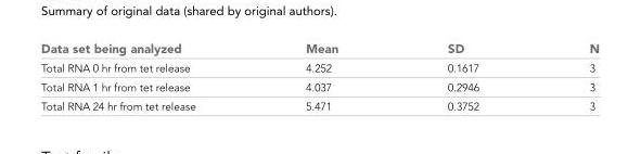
<table><thead><tr><td>Data set being analyzed</td><td>Mean</td><td>SD</td><td>N</td></tr></thead><tbody><tr><td>Total RNA 0 hr from tet release</td><td>4.252</td><td>0.1617</td><td>3</td></tr><tr><td>Total RNA 1 hr from tet release</td><td>4.037</td><td>0.2946</td><td>3</td></tr><tr><td>Total RNA 24 hr from tet release</td><td>5.471</td><td>0.3752</td><td>3</td></tr></tbody></table>